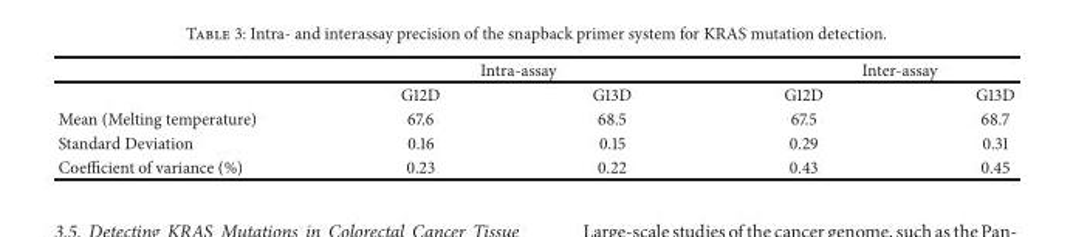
<table><thead><tr><td rowspan="2"></td><td colspan="2">Intra-assay</td><td colspan="2">Inter-assay</td></tr><tr><td>G12D</td><td>G13D</td><td>G12D</td><td>G13D</td></tr></thead><tbody><tr><td>Mean (Melting temperature)</td><td>67.6</td><td>68.5</td><td>67.5</td><td>68.7</td></tr><tr><td>Standard Deviation</td><td>0.16</td><td>0.15</td><td>0.29</td><td>0.31</td></tr><tr><td>Coefficient of variance (%)</td><td>0.23</td><td>0.22</td><td>0.43</td><td>0.45</td></tr></tbody></table>